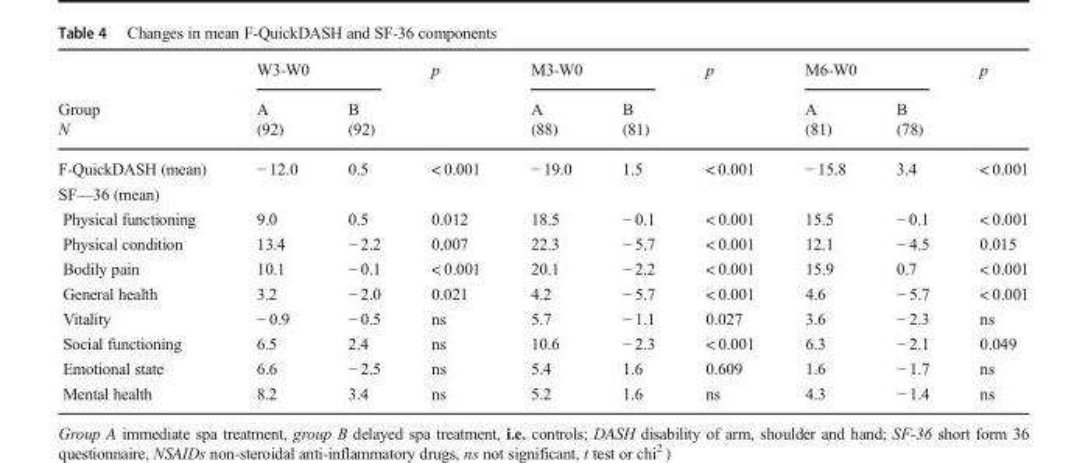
<table><thead><tr><td rowspan="3">Group N</td><td colspan="2">W3-W0</td><td rowspan="3">p</td><td colspan="2">M3-W0</td><td rowspan="3">p</td><td colspan="2">M6-W0</td><td rowspan="3">p</td></tr><tr><td rowspan="2">A (92)</td><td rowspan="2">B (92)</td><td rowspan="2">A (88)</td><td rowspan="2">B (81)</td><td rowspan="2">A (81)</td><td rowspan="2">B (78)</td></tr><tr></tr></thead><tbody><tr><td>F-QuickDASH (mean)</td><td>− 12.0</td><td>0.5</td><td>&lt; 0.001</td><td>− 19.0</td><td>1.5</td><td>&lt; 0.001</td><td>− 15.8</td><td>3.4</td><td>&lt; 0.001</td></tr><tr><td colspan="10">SF—36 (mean)</td></tr><tr><td>Physical functioning</td><td>9.0</td><td>0.5</td><td>0.012</td><td>18.5</td><td>− 0.1</td><td>&lt; 0.001</td><td>15.5</td><td>− 0.1</td><td>&lt; 0.001</td></tr><tr><td>Physical condition</td><td>13.4</td><td>− 2.2</td><td>0,007</td><td>22.3</td><td>− 5.7</td><td>&lt; 0.001</td><td>12.1</td><td>− 4.5</td><td>0.015</td></tr><tr><td>Bodily pain</td><td>10.1</td><td>− 0.1</td><td>&lt; 0.001</td><td>20.1</td><td>− 2.2</td><td>&lt; 0.001</td><td>15.9</td><td>0.7</td><td>&lt; 0.001</td></tr><tr><td>General health</td><td>3.2</td><td>− 2.0</td><td>0.021</td><td>4.2</td><td>− 5.7</td><td>&lt; 0.001</td><td>4.6</td><td>− 5.7</td><td>&lt; 0.001</td></tr><tr><td>Vitality</td><td>− 0.9</td><td>− 0.5</td><td>ns</td><td>5.7</td><td>− 1.1</td><td>0.027</td><td>3.6</td><td>− 2.3</td><td>ns</td></tr><tr><td>Social functioning</td><td>6.5</td><td>2.4</td><td>ns</td><td>10.6</td><td>− 2.3</td><td>&lt; 0.001</td><td>6.3</td><td>− 2.1</td><td>0.049</td></tr><tr><td>Emotional state</td><td>6.6</td><td>− 2.5</td><td>ns</td><td>5.4</td><td>1.6</td><td>0.609</td><td>1.6</td><td>− 1.7</td><td>ns</td></tr><tr><td>Mental health</td><td>8.2</td><td>3.4</td><td>ns</td><td>5.2</td><td>1.6</td><td>ns</td><td>4.3</td><td>− 1.4</td><td>ns</td></tr></tbody></table>